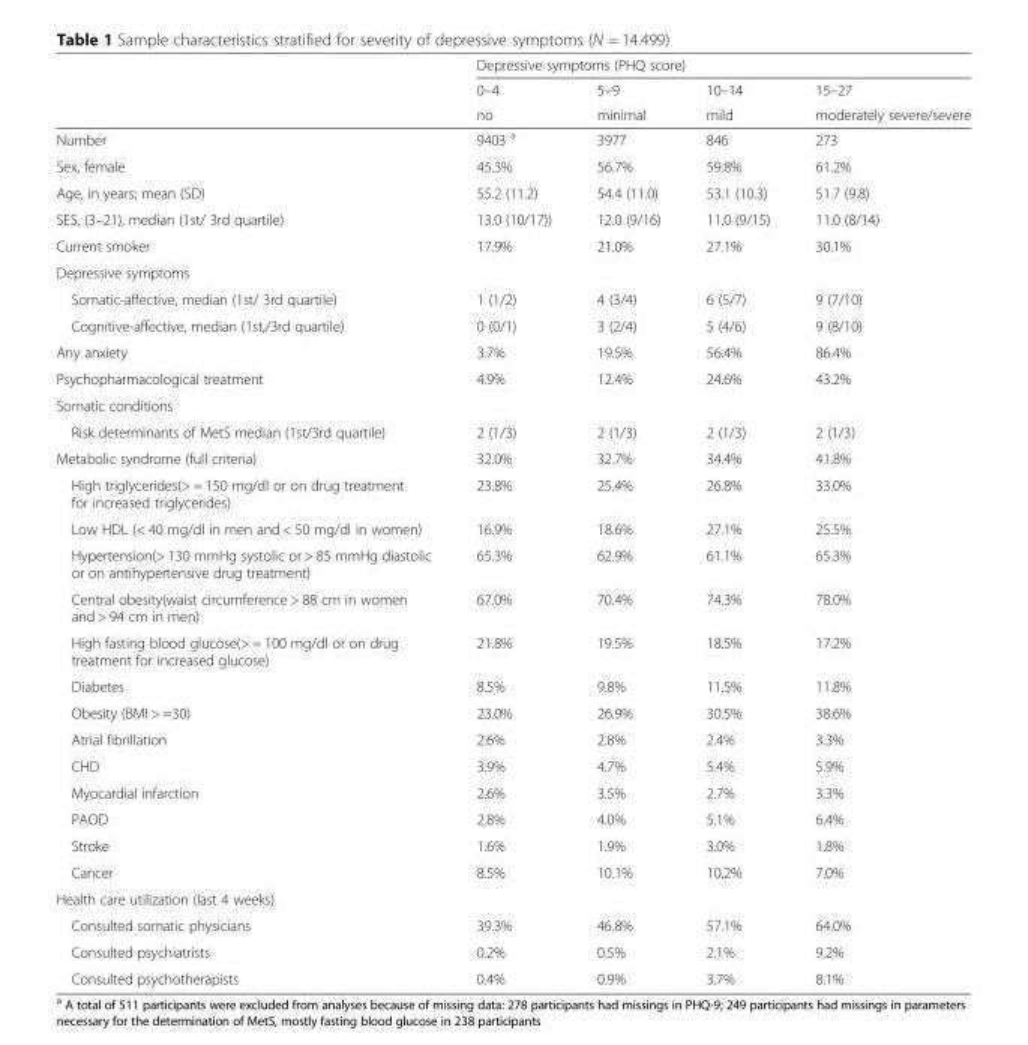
<table><thead><tr><td rowspan="3"></td><td colspan="4">Depressive symptoms (PHQ score)</td></tr><tr><td rowspan="2">0–4 no</td><td rowspan="2">5–9 minimal</td><td rowspan="2">10–14 mild</td><td rowspan="2">15–27 moderately severe/severe</td></tr><tr></tr></thead><tbody><tr><td>Number</td><td>9403 <sup>a</sup></td><td>3977</td><td>846</td><td>273</td></tr><tr><td>Sex, female</td><td>45.3%</td><td>56.7%</td><td>59.8%</td><td>61.2%</td></tr><tr><td>Age, in years; mean (SD)</td><td>55.2 (11.2)</td><td>54.4 (11.0)</td><td>53.1 (10.3)</td><td>51.7 (9.8)</td></tr><tr><td>SES, (3–21), median (1st/ 3rd quartile)</td><td>13.0 (10/17))</td><td>12.0 (9/16)</td><td>11.0 (9/15)</td><td>11.0 (8/14)</td></tr><tr><td>Current smoker</td><td>17.9%</td><td>21.0%</td><td>27.1%</td><td>30.1%</td></tr><tr><td colspan="5">Depressive symptoms</td></tr><tr><td>Somatic-affective, median (1st/ 3rd quartile)</td><td>1 (1/2)</td><td>4 (3/4)</td><td>6 (5/7)</td><td>9 (7/10)</td></tr><tr><td>Cognitive-affective, median (1st,/3rd quartile)</td><td>0 (0/1)</td><td>3 (2/4)</td><td>5 (4/6)</td><td>9 (8/10)</td></tr><tr><td>Any anxiety</td><td>3.7%</td><td>19.5%</td><td>56.4%</td><td>86.4%</td></tr><tr><td>Psychopharmacological treatment</td><td>4.9%</td><td>12.4%</td><td>24.6%</td><td>43.2%</td></tr><tr><td colspan="5">Somatic conditions</td></tr><tr><td>Risk determinants of MetS median (1st/3rd quartile)</td><td>2 (1/3)</td><td>2 (1/3)</td><td>2 (1/3)</td><td>2 (1/3)</td></tr><tr><td>Metabolic syndrome (full criteria)</td><td>32.0%</td><td>32.7%</td><td>34.4%</td><td>41.8%</td></tr><tr><td>High triglycerides(&gt; = 150 mg/dl or on drug treatment for increased triglycerides)</td><td>23.8%</td><td>25.4%</td><td>26.8%</td><td>33.0%</td></tr><tr><td>Low HDL (&lt; 40 mg/dl in men and &lt; 50 mg/dl in women)</td><td>16.9%</td><td>18.6%</td><td>27.1%</td><td>25.5%</td></tr><tr><td>Hypertension(&gt; 130 mmHg systolic or &gt; 85 mmHg diastolic or on antihypertensive drug treatment)</td><td>65.3%</td><td>62.9%</td><td>61.1%</td><td>65.3%</td></tr><tr><td>Central obesity(waist circumference &gt; 88 cm in women and &gt; 94 cm in men)</td><td>67.0%</td><td>70.4%</td><td>74.3%</td><td>78.0%</td></tr><tr><td>High fasting blood glucose(&gt; = 100 mg/dl or on drug treatment for increased glucose)</td><td>21.8%</td><td>19.5%</td><td>18.5%</td><td>17.2%</td></tr><tr><td>Diabetes</td><td>8.5%</td><td>9.8%</td><td>11.5%</td><td>11.8%</td></tr><tr><td>Obesity (BMI &gt; =30)</td><td>23.0%</td><td>26.9%</td><td>30.5%</td><td>38.6%</td></tr><tr><td>Atrial fibrillation</td><td>2.6%</td><td>2.8%</td><td>2.4%</td><td>3.3%</td></tr><tr><td>CHD</td><td>3.9%</td><td>4.7%</td><td>5.4%</td><td>5.9%</td></tr><tr><td>Myocardial infarction</td><td>2.6%</td><td>3.5%</td><td>2.7%</td><td>3.3%</td></tr><tr><td>PAOD</td><td>2.8%</td><td>4.0%</td><td>5.1%</td><td>6.4%</td></tr><tr><td>Stroke</td><td>1.6%</td><td>1.9%</td><td>3.0%</td><td>1.8%</td></tr><tr><td>Cancer</td><td>8.5%</td><td>10.1%</td><td>10.2%</td><td>7.0%</td></tr><tr><td colspan="5">Health care utilization (last 4 weeks)</td></tr><tr><td>Consulted somatic physicians</td><td>39.3%</td><td>46.8%</td><td>57.1%</td><td>64.0%</td></tr><tr><td>Consulted psychiatrists</td><td>0.2%</td><td>0.5%</td><td>2.1%</td><td>9.2%</td></tr><tr><td>Consulted psychotherapists</td><td>0.4%</td><td>0.9%</td><td>3.7%</td><td>8.1%</td></tr></tbody></table>